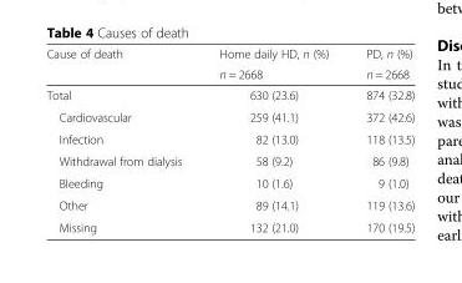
<table><thead><tr><td rowspan="2">Cause of death</td><td rowspan="2">Home daily HD, n (%) n = 2668</td><td rowspan="2">PD, n (%) n = 2668</td></tr><tr></tr></thead><tbody><tr><td>Total</td><td>630 (23.6)</td><td>874 (32.8)</td></tr><tr><td>Cardiovascular</td><td>259 (41.1)</td><td>372 (42.6)</td></tr><tr><td>Infection</td><td>82 (13.0)</td><td>118 (13.5)</td></tr><tr><td>Withdrawal from dialysis</td><td>58 (9.2)</td><td>86 (9.8)</td></tr><tr><td>Bleeding</td><td>10 (1.6)</td><td>9 (1.0)</td></tr><tr><td>Other</td><td>89 (14.1)</td><td>119 (13.6)</td></tr><tr><td>Missing</td><td>132 (21.0)</td><td>170 (19.5)</td></tr></tbody></table>